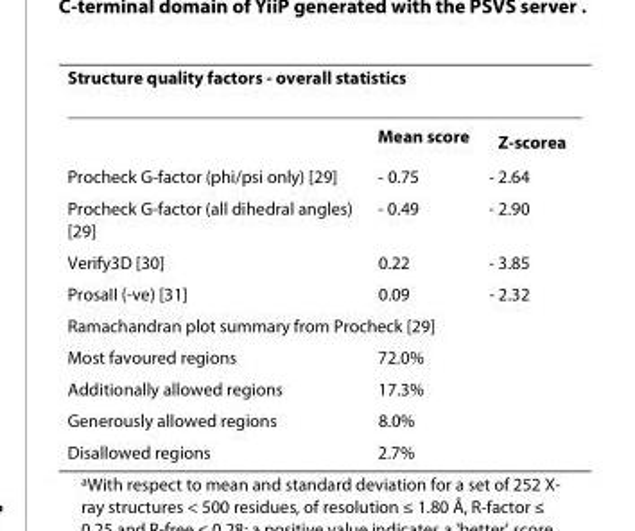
<table><thead><tr><td colspan="3">Structure quality factors - overall statistics</td></tr><tr><td></td><td>Mean score</td><td>Z-score<sup>a</sup></td></tr></thead><tbody><tr><td>Procheck G-factor (phi/psi only) [29]</td><td>- 0.75</td><td>- 2.64</td></tr><tr><td>Procheck G-factor (all dihedral angles) [29]</td><td>- 0.49</td><td>- 2.90</td></tr><tr><td>Verify3D [30]</td><td>0.22</td><td>- 3.85</td></tr><tr><td>ProsaII (-ve) [31]</td><td>0.09</td><td>- 2.32</td></tr><tr><td colspan="3">Ramachandran plot summary from Procheck [29]</td></tr><tr><td>Most favoured regions</td><td>72.0%</td><td></td></tr><tr><td>Additionally allowed regions</td><td>17.3%</td><td></td></tr><tr><td>Generously allowed regions</td><td>8.0%</td><td></td></tr><tr><td>Disallowed regions</td><td>2.7%</td><td></td></tr></tbody></table>